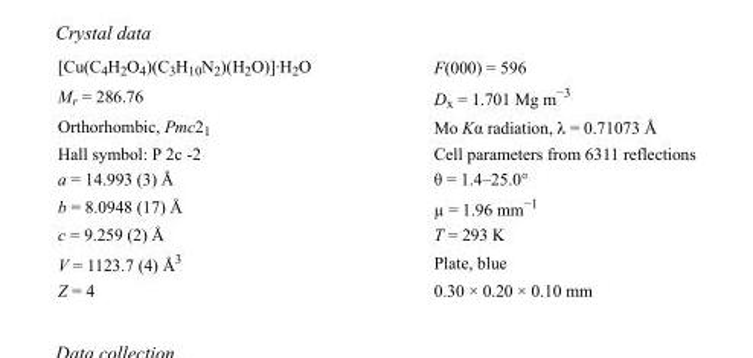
<table><tbody><tr><td>[Cu(C<sub>4</sub>H<sub>2</sub>O<sub>4</sub>)(C<sub>3</sub>H<sub>10</sub>N<sub>2</sub>)(H<sub>2</sub>O)]·H<sub>2</sub>O</td><td>F(000) = 596</td></tr><tr><td>M<sub>r</sub> = 286.76</td><td>D<sub>x</sub> = 1.701 Mg m<sup>−3</sup></td></tr><tr><td>Orthorhombic, Pmc2<sub>1</sub></td><td>Mo Kα radiation, λ = 0.71073 Å</td></tr><tr><td>Hall symbol: P 2c -2</td><td>Cell parameters from 6311 reflections</td></tr><tr><td>a = 14.993 (3) Å</td><td>θ = 1.4–25.0°</td></tr><tr><td>b = 8.0948 (17) Å</td><td>µ = 1.96 mm<sup>−1</sup></td></tr><tr><td>c = 9.259 (2) Å</td><td>T = 293 K</td></tr><tr><td>V = 1123.7 (4) Å<sup>3</sup></td><td>Plate, blue</td></tr><tr><td>Z = 4</td><td>0.30 × 0.20 × 0.10 mm</td></tr></tbody></table>